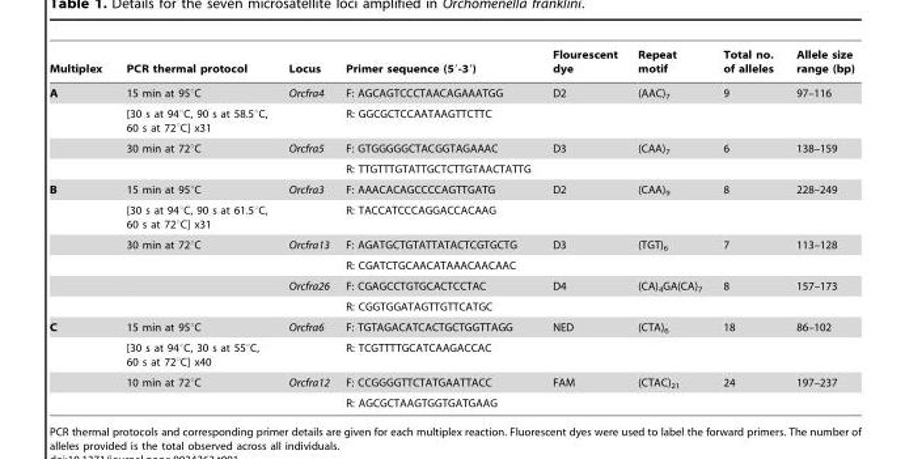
<table><thead><tr><td>Multiplex</td><td>PCR thermal protocol</td><td>Locus</td><td>Primer sequence (5′-3′)</td><td>Flourescent dye</td><td>Repeat motif</td><td>Total no. of alleles</td><td>Allele size range (bp)</td></tr></thead><tbody><tr><td rowspan="4">A</td><td>15 min at 95°C</td><td>Orcfra4</td><td>F: AGCAGTCCCTAACAGAAATGG</td><td>D2</td><td>(AAC)<sub>7</sub></td><td>9</td><td>97–116</td></tr><tr><td>[30 s at 94°C, 90 s at 58.5°C, 60 s at 72°C] x31</td><td></td><td>R: GGCGCTCCAATAAGTTCTTC</td><td></td><td></td><td></td><td></td></tr><tr><td>30 min at 72°C</td><td>Orcfra5</td><td>F: GTGGGGGCTACGGTAGAAAC</td><td>D3</td><td>(CAA)<sub>7</sub></td><td>6</td><td>138–159</td></tr><tr><td></td><td></td><td>R: TTGTTTGTATTGCTCTTGTAACTATTG</td><td></td><td></td><td></td><td></td></tr><tr><td rowspan="6">B</td><td>15 min at 95°C</td><td>Orcfra3</td><td>F: AAACACAGCCCCAGTTGATG</td><td>D2</td><td>(CAA)<sub>9</sub></td><td>8</td><td>228–249</td></tr><tr><td>[30 s at 94°C, 90 s at 61.5°C, 60 s at 72°C] x31</td><td></td><td>R: TACCATCCCAGGACCACAAG</td><td></td><td></td><td></td><td></td></tr><tr><td>30 min at 72°C</td><td>Orcfra13</td><td>F: AGATGCTGTATTATACTCGTGCTG</td><td>D3</td><td>(TGT)<sub>6</sub></td><td>7</td><td>113–128</td></tr><tr><td></td><td></td><td>R: CGATCTGCAACATAAACAACAAC</td><td></td><td></td><td></td><td></td></tr><tr><td></td><td>Orcfra26</td><td>F: CGAGCCTGTGCACTCCTAC</td><td>D4</td><td>(CA)<sub>4</sub>GA(CA)<sub>7</sub></td><td>8</td><td>157–173</td></tr><tr><td></td><td></td><td>R: CGGTGGATAGTTGTTCATGC</td><td></td><td></td><td></td><td></td></tr><tr><td rowspan="4">C</td><td>15 min at 95°C</td><td>Orcfra6</td><td>F: TGTAGACATCACTGCTGGTTAGG</td><td>NED</td><td>(CTA)<sub>6</sub></td><td>18</td><td>86–102</td></tr><tr><td>[30 s at 94°C, 30 s at 55°C, 60 s at 72°C] x40</td><td></td><td>R: TCGTTTTGCATCAAGACCAC</td><td></td><td></td><td></td><td></td></tr><tr><td>10 min at 72°C</td><td>Orcfra12</td><td>F: CCGGGGTTCTATGAATTACC</td><td>FAM</td><td>(CTAC)<sub>21</sub></td><td>24</td><td>197–237</td></tr><tr><td></td><td></td><td>R: AGCGCTAAGTGGTGATGAAG</td><td></td><td></td><td></td><td></td></tr></tbody></table>